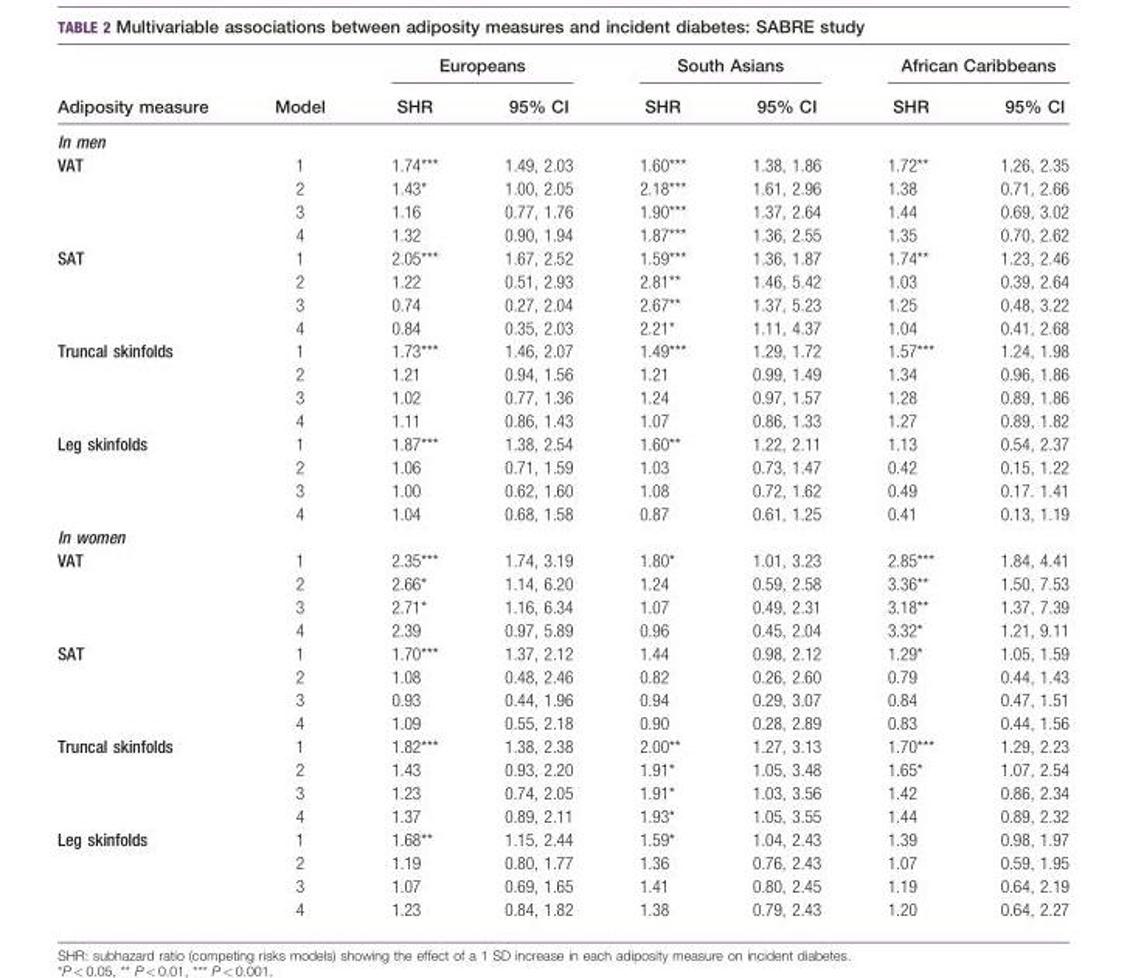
<table><thead><tr><td rowspan="2">Adiposity measure</td><td rowspan="2">Model</td><td colspan="2">Europeans</td><td colspan="2">South Asians</td><td colspan="2">African Caribbeans</td></tr><tr><td>SHR</td><td>95% CI</td><td>SHR</td><td>95% CI</td><td>SHR</td><td>95% CI</td></tr></thead><tbody><tr><td colspan="8">In men</td></tr><tr><td rowspan="4">VAT</td><td>1</td><td>1.74***</td><td>1.49, 2.03</td><td>1.60***</td><td>1.38, 1.86</td><td>1.72**</td><td>1.26, 2.35</td></tr><tr><td>2</td><td>1.43*</td><td>1.00, 2.05</td><td>2.18***</td><td>1.61, 2.96</td><td>1.38</td><td>0.71, 2.66</td></tr><tr><td>3</td><td>1.16</td><td>0.77, 1.76</td><td>1.90***</td><td>1.37, 2.64</td><td>1.44</td><td>0.69, 3.02</td></tr><tr><td>4</td><td>1.32</td><td>0.90, 1.94</td><td>1.87***</td><td>1.36, 2.55</td><td>1.35</td><td>0.70, 2.62</td></tr><tr><td rowspan="4">SAT</td><td>1</td><td>2.05***</td><td>1.67, 2.52</td><td>1.59***</td><td>1.36, 1.87</td><td>1.74**</td><td>1.23, 2.46</td></tr><tr><td>2</td><td>1.22</td><td>0.51, 2.93</td><td>2.81**</td><td>1.46, 5.42</td><td>1.03</td><td>0.39, 2.64</td></tr><tr><td>3</td><td>0.74</td><td>0.27, 2.04</td><td>2.67**</td><td>1.37, 5.23</td><td>1.25</td><td>0.48, 3.22</td></tr><tr><td>4</td><td>0.84</td><td>0.35, 2.03</td><td>2.21*</td><td>1.11, 4.37</td><td>1.04</td><td>0.41, 2.68</td></tr><tr><td rowspan="4">Truncal skinfolds</td><td>1</td><td>1.73***</td><td>1.46, 2.07</td><td>1.49***</td><td>1.29, 1.72</td><td>1.57***</td><td>1.24, 1.98</td></tr><tr><td>2</td><td>1.21</td><td>0.94, 1.56</td><td>1.21</td><td>0.99, 1.49</td><td>1.34</td><td>0.96, 1.86</td></tr><tr><td>3</td><td>1.02</td><td>0.77, 1.36</td><td>1.24</td><td>0.97, 1.57</td><td>1.28</td><td>0.89, 1.86</td></tr><tr><td>4</td><td>1.11</td><td>0.86, 1.43</td><td>1.07</td><td>0.86, 1.33</td><td>1.27</td><td>0.89, 1.82</td></tr><tr><td rowspan="4">Leg skinfolds</td><td>1</td><td>1.87***</td><td>1.38, 2.54</td><td>1.60**</td><td>1.22, 2.11</td><td>1.13</td><td>0.54, 2.37</td></tr><tr><td>2</td><td>1.06</td><td>0.71, 1.59</td><td>1.03</td><td>0.73, 1.47</td><td>0.42</td><td>0.15, 1.22</td></tr><tr><td>3</td><td>1.00</td><td>0.62, 1.60</td><td>1.08</td><td>0.72, 1.62</td><td>0.49</td><td>0.17. 1.41</td></tr><tr><td>4</td><td>1.04</td><td>0.68, 1.58</td><td>0.87</td><td>0.61, 1.25</td><td>0.41</td><td>0.13, 1.19</td></tr><tr><td colspan="8">In women</td></tr><tr><td rowspan="4">VAT</td><td>1</td><td>2.35***</td><td>1.74, 3.19</td><td>1.80*</td><td>1.01, 3.23</td><td>2.85***</td><td>1.84, 4.41</td></tr><tr><td>2</td><td>2.66*</td><td>1.14, 6.20</td><td>1.24</td><td>0.59, 2.58</td><td>3.36**</td><td>1.50, 7.53</td></tr><tr><td>3</td><td>2.71*</td><td>1.16, 6.34</td><td>1.07</td><td>0.49, 2.31</td><td>3.18**</td><td>1.37, 7.39</td></tr><tr><td>4</td><td>2.39</td><td>0.97, 5.89</td><td>0.96</td><td>0.45, 2.04</td><td>3.32*</td><td>1.21, 9.11</td></tr><tr><td rowspan="4">SAT</td><td>1</td><td>1.70***</td><td>1.37, 2.12</td><td>1.44</td><td>0.98, 2.12</td><td>1.29*</td><td>1.05, 1.59</td></tr><tr><td>2</td><td>1.08</td><td>0.48, 2.46</td><td>0.82</td><td>0.26, 2.60</td><td>0.79</td><td>0.44, 1.43</td></tr><tr><td>3</td><td>0.93</td><td>0.44, 1.96</td><td>0.94</td><td>0.29, 3.07</td><td>0.84</td><td>0.47, 1.51</td></tr><tr><td>4</td><td>1.09</td><td>0.55, 2.18</td><td>0.90</td><td>0.28, 2.89</td><td>0.83</td><td>0.44, 1.56</td></tr><tr><td rowspan="4">Truncal skinfolds</td><td>1</td><td>1.82***</td><td>1.38, 2.38</td><td>2.00**</td><td>1.27, 3.13</td><td>1.70***</td><td>1.29, 2.23</td></tr><tr><td>2</td><td>1.43</td><td>0.93, 2.20</td><td>1.91*</td><td>1.05, 3.48</td><td>1.65*</td><td>1.07, 2.54</td></tr><tr><td>3</td><td>1.23</td><td>0.74, 2.05</td><td>1.91*</td><td>1.03, 3.56</td><td>1.42</td><td>0.86, 2.34</td></tr><tr><td>4</td><td>1.37</td><td>0.89, 2.11</td><td>1.93*</td><td>1.05, 3.55</td><td>1.44</td><td>0.89, 2.32</td></tr><tr><td rowspan="4">Leg skinfolds</td><td>1</td><td>1.68**</td><td>1.15, 2.44</td><td>1.59*</td><td>1.04, 2.43</td><td>1.39</td><td>0.98, 1.97</td></tr><tr><td>2</td><td>1.19</td><td>0.80, 1.77</td><td>1.36</td><td>0.76, 2.43</td><td>1.07</td><td>0.59, 1.95</td></tr><tr><td>3</td><td>1.07</td><td>0.69, 1.65</td><td>1.41</td><td>0.80, 2.45</td><td>1.19</td><td>0.64, 2.19</td></tr><tr><td>4</td><td>1.23</td><td>0.84, 1.82</td><td>1.38</td><td>0.79, 2.43</td><td>1.20</td><td>0.64, 2.27</td></tr></tbody></table>